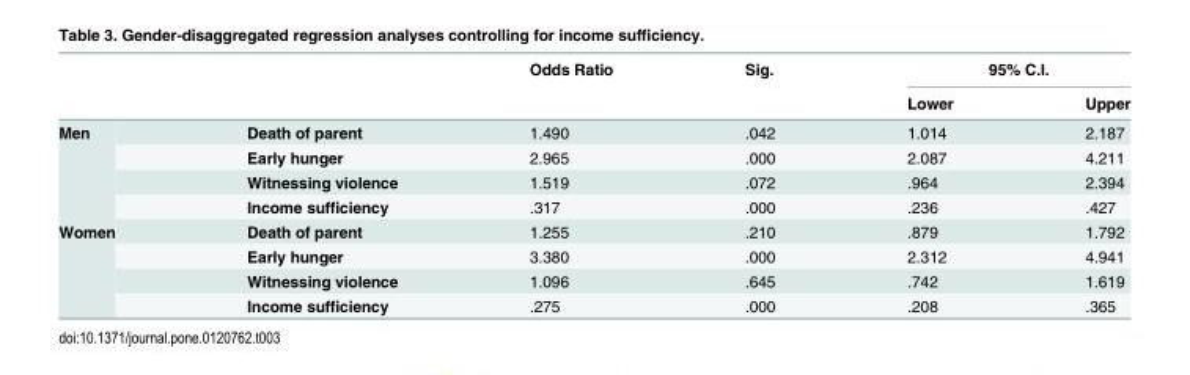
<table><thead><tr><td rowspan="2"></td><td rowspan="2"></td><td rowspan="2">Odds Ratio</td><td rowspan="2">Sig.</td><td colspan="2">95% C.I.</td></tr><tr><td>Lower</td><td>Upper</td></tr></thead><tbody><tr><td rowspan="4">Men</td><td>Death of parent</td><td>1.490</td><td>.042</td><td>1.014</td><td>2.187</td></tr><tr><td>Early hunger</td><td>2.965</td><td>.000</td><td>2.087</td><td>4.211</td></tr><tr><td>Witnessing violence</td><td>1.519</td><td>.072</td><td>.964</td><td>2.394</td></tr><tr><td>Income sufficiency</td><td>.317</td><td>.000</td><td>.236</td><td>.427</td></tr><tr><td rowspan="4">Women</td><td>Death of parent</td><td>1.255</td><td>.210</td><td>.879</td><td>1.792</td></tr><tr><td>Early hunger</td><td>3.380</td><td>.000</td><td>2.312</td><td>4.941</td></tr><tr><td>Witnessing violence</td><td>1.096</td><td>.645</td><td>.742</td><td>1.619</td></tr><tr><td>Income sufficiency</td><td>.275</td><td>.000</td><td>.208</td><td>.365</td></tr></tbody></table>